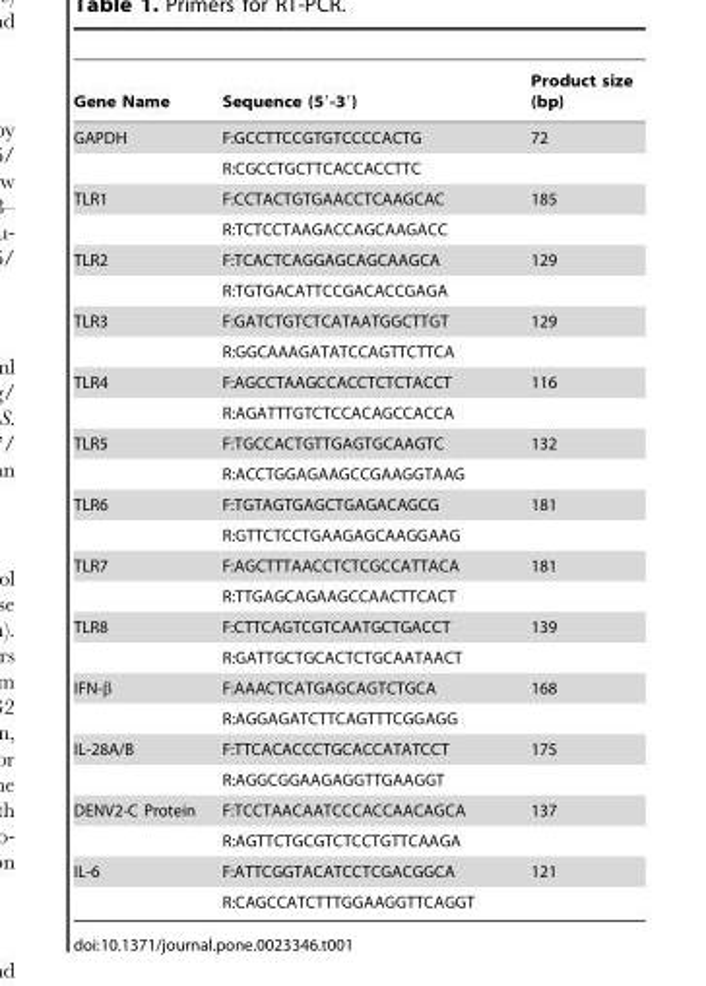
<table><thead><tr><td>Gene Name</td><td>Sequence (5′-3′)</td><td>Product size (bp)</td></tr></thead><tbody><tr><td rowspan="2">GAPDH</td><td>F:GCCTTCCGTGTCCCCACTG</td><td>72</td></tr><tr><td>R:CGCCTGCTTCACCACCTTC</td><td></td></tr><tr><td rowspan="2">TLR1</td><td>F:CCTACTGTGAACCTCAAGCAC</td><td>185</td></tr><tr><td>R:TCTCCTAAGACCAGCAAGACC</td><td></td></tr><tr><td rowspan="2">TLR2</td><td>F:TCACTCAGGAGCAGCAAGCA</td><td>129</td></tr><tr><td>R:TGTGACATTCCGACACCGAGA</td><td></td></tr><tr><td rowspan="2">TLR3</td><td>F:GATCTGTCTCATAATGGCTTGT</td><td>129</td></tr><tr><td>R:GGCAAAGATATCCAGTTCTTCA</td><td></td></tr><tr><td rowspan="2">TLR4</td><td>F:AGCCTAAGCCACCTCTCTACCT</td><td>116</td></tr><tr><td>R:AGATTTGTCTCCACAGCCACCA</td><td></td></tr><tr><td rowspan="2">TLR5</td><td>F:TGCCACTGTTGAGTGCAAGTC</td><td>132</td></tr><tr><td>R:ACCTGGAGAAGCCGAAGGTAAG</td><td></td></tr><tr><td rowspan="2">TLR6</td><td>F:TGTAGTGAGCTGAGACAGCG</td><td>181</td></tr><tr><td>R:GTTCTCCTGAAGAGCAAGGAAG</td><td></td></tr><tr><td rowspan="2">TLR7</td><td>F:AGCTTTAACCTCTCGCCATTACA</td><td>181</td></tr><tr><td>R:TTGAGCAGAAGCCAACTTCACT</td><td></td></tr><tr><td rowspan="2">TLR8</td><td>F:CTTCAGTCGTCAATGCTGACCT</td><td>139</td></tr><tr><td>R:GATTGCTGCACTCTGCAATAACT</td><td></td></tr><tr><td rowspan="2">IFN-β</td><td>F:AAACTCATGAGCAGTCTGCA</td><td>168</td></tr><tr><td>R:AGGAGATCTTCAGTTTCGGAGG</td><td></td></tr><tr><td rowspan="2">IL-28A/B</td><td>F:TTCACACCCTGCACCATATCCT</td><td>175</td></tr><tr><td>R:AGGCGGAAGAGGTTGAAGGT</td><td></td></tr><tr><td rowspan="2">DENV2-C Protein</td><td>F:TCCTAACAATCCCACCAACAGCA</td><td>137</td></tr><tr><td>R:AGTTCTGCGTCTCCTGTTCAAGA</td><td></td></tr><tr><td rowspan="2">IL-6</td><td>F:ATTCGGTACATCCTCGACGGCA</td><td>121</td></tr><tr><td>R:CAGCCATCTTTGGAAGGTTCAGGT</td><td></td></tr></tbody></table>